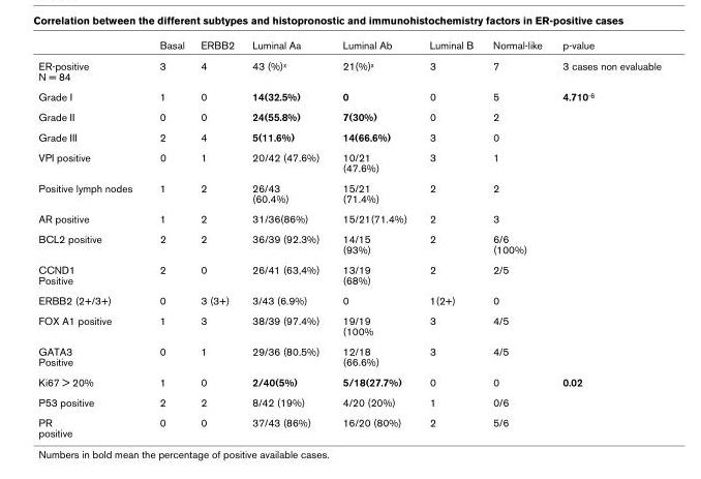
<table><thead><tr><td></td><td>Basal</td><td>ERBB2</td><td>Luminal Aa</td><td>Luminal Ab</td><td>Luminal B</td><td>Normal-like</td><td>p-value</td></tr></thead><tbody><tr><td>ER-positive N = 84</td><td>3</td><td>4</td><td>43 (%)<sup>x</sup></td><td>21(%)<sup>x</sup></td><td>3</td><td>7</td><td>3 cases non evaluable</td></tr><tr><td>Grade I</td><td>1</td><td>0</td><td>14(32.5%)</td><td>0</td><td>0</td><td>5</td><td>4.710<sup>-6</sup></td></tr><tr><td>Grade II</td><td>0</td><td>0</td><td>24(55.8%)</td><td>7(30%)</td><td>0</td><td>2</td><td></td></tr><tr><td>Grade III</td><td>2</td><td>4</td><td>5(11.6%)</td><td>14(66.6%)</td><td>3</td><td>0</td><td></td></tr><tr><td>VPI positive</td><td>0</td><td>1</td><td>20/42 (47.6%)</td><td>10/21 (47.6%)</td><td>3</td><td>1</td><td></td></tr><tr><td>Positive lymph nodes</td><td>1</td><td>2</td><td>26/43 (60.4%)</td><td>15/21 (71.4%)</td><td>2</td><td>2</td><td></td></tr><tr><td>AR positive</td><td>1</td><td>2</td><td>31/36(86%)</td><td>15/21(71.4%)</td><td>2</td><td>3</td><td></td></tr><tr><td>BCL2 positive</td><td>2</td><td>2</td><td>36/39 (92.3%)</td><td>14/15 (93%)</td><td>2</td><td>6/6 (100%)</td><td></td></tr><tr><td>CCND1 Positive</td><td>2</td><td>0</td><td>26/41 (63,4%)</td><td>13/19 (68%)</td><td>2</td><td>2/5</td><td></td></tr><tr><td>ERBB2 (2+/3+)</td><td>0</td><td>3 (3+)</td><td>3/43 (6.9%)</td><td>0</td><td>1(2+)</td><td>0</td><td></td></tr><tr><td>FOX A1 positive</td><td>1</td><td>3</td><td>38/39 (97.4%)</td><td>19/19 (100%</td><td>3</td><td>4/5</td><td></td></tr><tr><td>GATA3 Positive</td><td>0</td><td>1</td><td>29/36 (80.5%)</td><td>12/18 (66.6%)</td><td>3</td><td>4/5</td><td></td></tr><tr><td>Ki67 &gt; 20%</td><td>1</td><td>0</td><td>2/40(5%)</td><td>5/18(27.7%)</td><td>0</td><td>0</td><td>0.02</td></tr><tr><td>P53 positive</td><td>2</td><td>2</td><td>8/42 (19%)</td><td>4/20 (20%)</td><td>1</td><td>0/6</td><td></td></tr><tr><td>PR positive</td><td>0</td><td>0</td><td>37/43 (86%)</td><td>16/20 (80%)</td><td>2</td><td>5/6</td><td></td></tr></tbody></table>